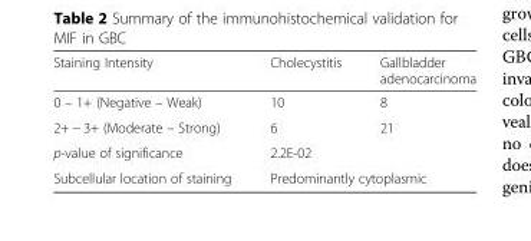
<table><thead><tr><td>Staining Intensity</td><td>Cholecystitis</td><td>Gallbladder adenocarcinoma</td></tr></thead><tbody><tr><td>0 – 1+ (Negative – Weak)</td><td>10</td><td>8</td></tr><tr><td>2+ − 3+ (Moderate – Strong)</td><td>6</td><td>21</td></tr><tr><td>p-value of significance</td><td colspan="2">2.2E-02</td></tr><tr><td>Subcellular location of staining</td><td colspan="2">Predominantly cytoplasmic</td></tr></tbody></table>